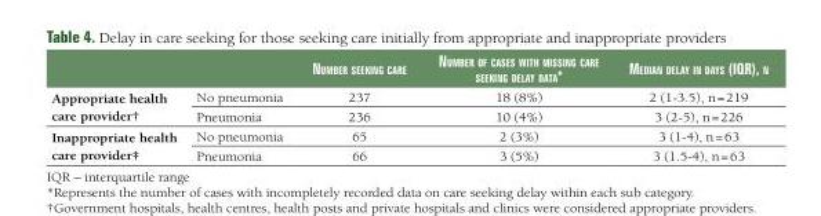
<table><thead><tr><td></td><td></td><td>number seeking Care</td><td>number of Cases with missing Care seeking Delay Data*</td><td>meDian Delay in Days (iQr), n</td></tr></thead><tbody><tr><td rowspan="2">Appropriate health care provider†</td><td>No pneumonia</td><td>237</td><td>18 (8%)</td><td>2 (1-3.5), n = 219</td></tr><tr><td>Pneumonia</td><td>236</td><td>10 (4%)</td><td>3 (2-5), n = 226</td></tr><tr><td rowspan="2">Inappropriate health care provider‡</td><td>No pneumonia</td><td>65</td><td>2 (3%)</td><td>3 (1-4), n = 63</td></tr><tr><td>Pneumonia</td><td>66</td><td>3 (5%)</td><td>3 (1.5-4), n = 63</td></tr></tbody></table>